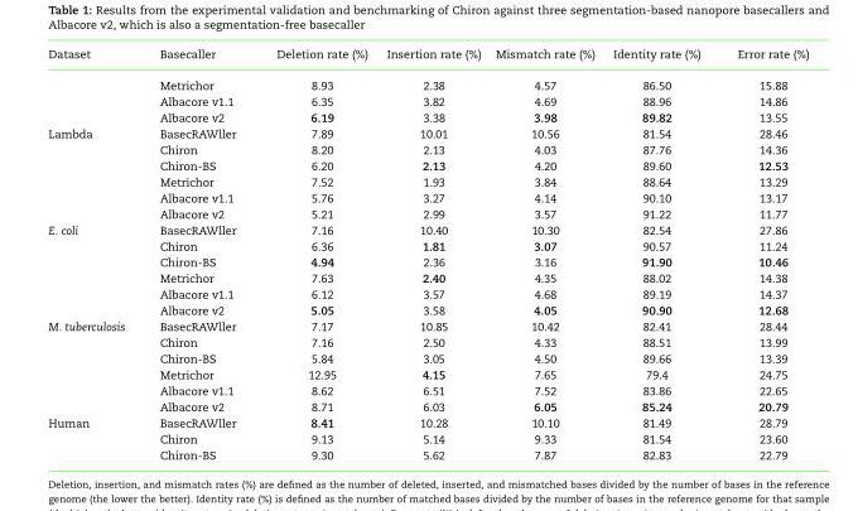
<table><thead><tr><td>Dataset</td><td>Basecaller</td><td>Deletion rate (%)</td><td>Insertion rate (%)</td><td>Mismatch rate (%)</td><td>Identity rate (%)</td><td>Error rate (%)</td></tr></thead><tbody><tr><td></td><td>Metrichor</td><td>8.93</td><td>2.38</td><td>4.57</td><td>86.50</td><td>15.88</td></tr><tr><td></td><td>Albacore v1.1</td><td>6.35</td><td>3.82</td><td>4.69</td><td>88.96</td><td>14.86</td></tr><tr><td></td><td>Albacore v2</td><td>6.19</td><td>3.38</td><td>3.98</td><td>89.82</td><td>13.55</td></tr><tr><td rowspan="6">Lambda</td><td>BasecRAWller</td><td>7.89</td><td>10.01</td><td>10.56</td><td>81.54</td><td>28.46</td></tr><tr><td>Chiron</td><td>8.20</td><td>2.13</td><td>4.03</td><td>87.76</td><td>14.36</td></tr><tr><td>Chiron-BS</td><td>6.20</td><td>2.13</td><td>4.20</td><td>89.60</td><td>12.53</td></tr><tr><td>Metrichor</td><td>7.52</td><td>1.93</td><td>3.84</td><td>88.64</td><td>13.29</td></tr><tr><td>Albacore v1.1</td><td>5.76</td><td>3.27</td><td>4.14</td><td>90.10</td><td>13.17</td></tr><tr><td>Albacore v2</td><td>5.21</td><td>2.99</td><td>3.57</td><td>91.22</td><td>11.77</td></tr><tr><td rowspan="6">E. coli</td><td>BasecRAWller</td><td>7.16</td><td>10.40</td><td>10.30</td><td>82.54</td><td>27.86</td></tr><tr><td>Chiron</td><td>6.36</td><td>1.81</td><td>3.07</td><td>90.57</td><td>11.24</td></tr><tr><td>Chiron-BS</td><td>4.94</td><td>2.36</td><td>3.16</td><td>91.90</td><td>10.46</td></tr><tr><td>Metrichor</td><td>7.63</td><td>2.40</td><td>4.35</td><td>88.02</td><td>14.38</td></tr><tr><td>Albacore v1.1</td><td>6.12</td><td>3.57</td><td>4.68</td><td>89.19</td><td>14.37</td></tr><tr><td>Albacore v2</td><td>5.05</td><td>3.58</td><td>4.05</td><td>90.90</td><td>12.68</td></tr><tr><td rowspan="6">M. tuberculosis</td><td>BasecRAWller</td><td>7.17</td><td>10.85</td><td>10.42</td><td>82.41</td><td>28.44</td></tr><tr><td>Chiron</td><td>7.16</td><td>2.50</td><td>4.33</td><td>88.51</td><td>13.99</td></tr><tr><td>Chiron-BS</td><td>5.84</td><td>3.05</td><td>4.50</td><td>89.66</td><td>13.39</td></tr><tr><td>Metrichor</td><td>12.95</td><td>4.15</td><td>7.65</td><td>79.4</td><td>24.75</td></tr><tr><td>Albacore v1.1</td><td>8.62</td><td>6.51</td><td>7.52</td><td>83.86</td><td>22.65</td></tr><tr><td>Albacore v2</td><td>8.71</td><td>6.03</td><td>6.05</td><td>85.24</td><td>20.79</td></tr><tr><td rowspan="3">Human</td><td>BasecRAWller</td><td>8.41</td><td>10.28</td><td>10.10</td><td>81.49</td><td>28.79</td></tr><tr><td>Chiron</td><td>9.13</td><td>5.14</td><td>9.33</td><td>81.54</td><td>23.60</td></tr><tr><td>Chiron-BS</td><td>9.30</td><td>5.62</td><td>7.87</td><td>82.83</td><td>22.79</td></tr></tbody></table>